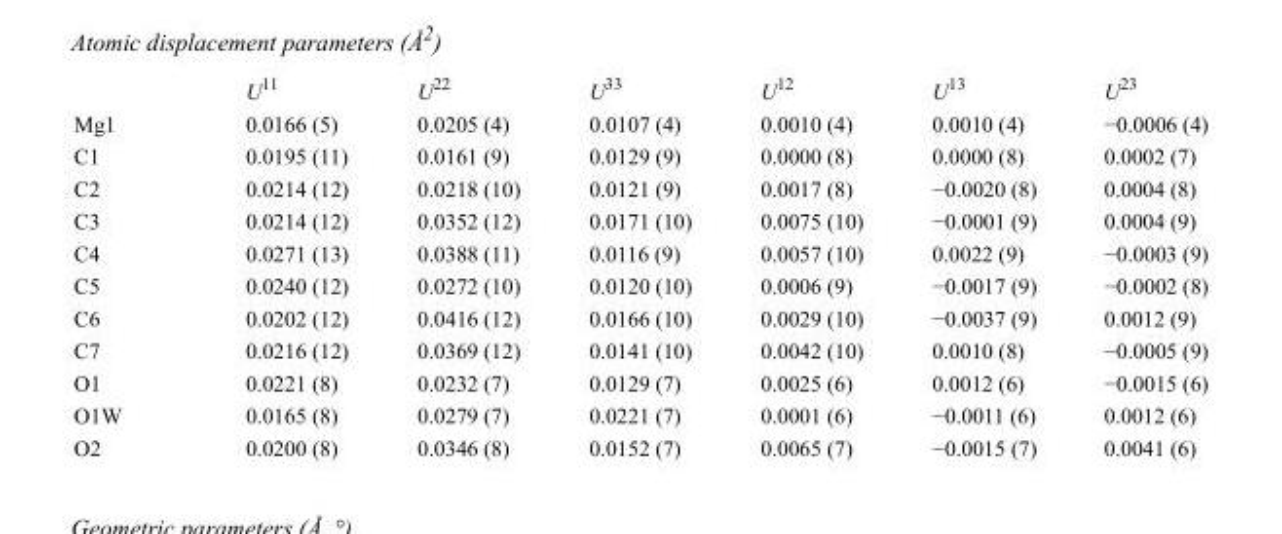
<table><thead><tr><td></td><td>U<sup>11</sup></td><td>U<sup>22</sup></td><td>U<sup>33</sup></td><td>U<sup>12</sup></td><td>U<sup>13</sup></td><td>U<sup>23</sup></td></tr></thead><tbody><tr><td>Mg1</td><td>0.0166 (5)</td><td>0.0205 (4)</td><td>0.0107 (4)</td><td>0.0010 (4)</td><td>0.0010 (4)</td><td>−0.0006 (4)</td></tr><tr><td>C1</td><td>0.0195 (11)</td><td>0.0161 (9)</td><td>0.0129 (9)</td><td>0.0000 (8)</td><td>0.0000 (8)</td><td>0.0002 (7)</td></tr><tr><td>C2</td><td>0.0214 (12)</td><td>0.0218 (10)</td><td>0.0121 (9)</td><td>0.0017 (8)</td><td>−0.0020 (8)</td><td>0.0004 (8)</td></tr><tr><td>C3</td><td>0.0214 (12)</td><td>0.0352 (12)</td><td>0.0171 (10)</td><td>0.0075 (10)</td><td>−0.0001 (9)</td><td>0.0004 (9)</td></tr><tr><td>C4</td><td>0.0271 (13)</td><td>0.0388 (11)</td><td>0.0116 (9)</td><td>0.0057 (10)</td><td>0.0022 (9)</td><td>−0.0003 (9)</td></tr><tr><td>C5</td><td>0.0240 (12)</td><td>0.0272 (10)</td><td>0.0120 (10)</td><td>0.0006 (9)</td><td>−0.0017 (9)</td><td>−0.0002 (8)</td></tr><tr><td>C6</td><td>0.0202 (12)</td><td>0.0416 (12)</td><td>0.0166 (10)</td><td>0.0029 (10)</td><td>−0.0037 (9)</td><td>0.0012 (9)</td></tr><tr><td>C7</td><td>0.0216 (12)</td><td>0.0369 (12)</td><td>0.0141 (10)</td><td>0.0042 (10)</td><td>0.0010 (8)</td><td>−0.0005 (9)</td></tr><tr><td>O1</td><td>0.0221 (8)</td><td>0.0232 (7)</td><td>0.0129 (7)</td><td>0.0025 (6)</td><td>0.0012 (6)</td><td>−0.0015 (6)</td></tr><tr><td>O1W</td><td>0.0165 (8)</td><td>0.0279 (7)</td><td>0.0221 (7)</td><td>0.0001 (6)</td><td>−0.0011 (6)</td><td>0.0012 (6)</td></tr><tr><td>O2</td><td>0.0200 (8)</td><td>0.0346 (8)</td><td>0.0152 (7)</td><td>0.0065 (7)</td><td>−0.0015 (7)</td><td>0.0041 (6)</td></tr></tbody></table>